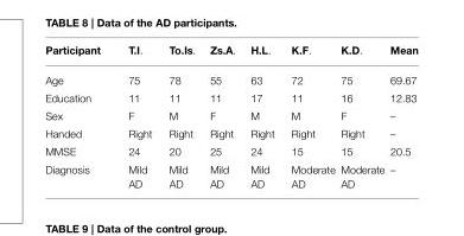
<table><thead><tr><td>Participant</td><td>T.I.</td><td>To.Is.</td><td>Zs.A.</td><td>H.L.</td><td>K.F.</td><td>K.D.</td><td>Mean</td></tr></thead><tbody><tr><td>Age</td><td>75</td><td>78</td><td>55</td><td>63</td><td>72</td><td>75</td><td>69.67</td></tr><tr><td>Education</td><td>11</td><td>11</td><td>11</td><td>17</td><td>11</td><td>16</td><td>12.83</td></tr><tr><td>Sex</td><td>F</td><td>M</td><td>F</td><td>M</td><td>M</td><td>F</td><td>–</td></tr><tr><td>Handed</td><td>Right</td><td>Right</td><td>Right</td><td>Right</td><td>Right</td><td>Right</td><td>–</td></tr><tr><td>MMSE</td><td>24</td><td>20</td><td>25</td><td>24</td><td>15</td><td>15</td><td>20.5</td></tr><tr><td>Diagnosis</td><td>Mild AD</td><td>Mild AD</td><td>Mild AD</td><td>Mild AD</td><td>Moderate AD</td><td>Moderate AD</td><td>–</td></tr></tbody></table>